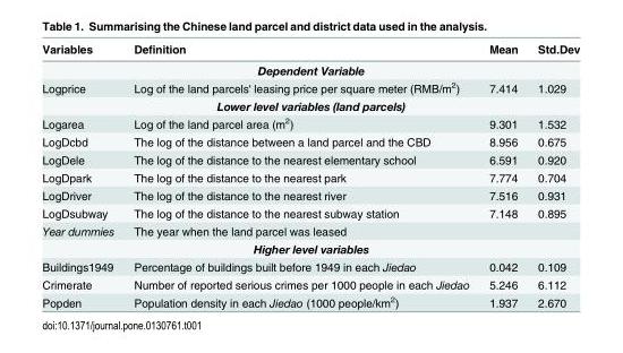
<table><thead><tr><td>Variables</td><td>Definition</td><td>Mean</td><td>Std.Dev</td></tr></thead><tbody><tr><td colspan="4">Dependent Variable</td></tr><tr><td>Logprice</td><td>Log of the land parcels&#x27; leasing price per square meter (RMB/m<sup>2</sup>)</td><td>7.414</td><td>1.029</td></tr><tr><td colspan="4">Lower level variables (land parcels)</td></tr><tr><td>Logarea</td><td>Log of the land parcel area (m<sup>2</sup>)</td><td>9.301</td><td>1.532</td></tr><tr><td>LogDcbd</td><td>The log of the distance between a land parcel and the CBD</td><td>8.956</td><td>0.675</td></tr><tr><td>LogDele</td><td>The log of the distance to the nearest elementary school</td><td>6.591</td><td>0.920</td></tr><tr><td>LogDpark</td><td>The log of the distance to the nearest park</td><td>7.774</td><td>0.704</td></tr><tr><td>LogDriver</td><td>The log of the distance to the nearest river</td><td>7.516</td><td>0.931</td></tr><tr><td>LogDsubway</td><td>The log of the distance to the nearest subway station</td><td>7.148</td><td>0.895</td></tr><tr><td>Year dummies</td><td>The year when the land parcel was leased</td><td></td><td></td></tr><tr><td colspan="4">Higher level variables</td></tr><tr><td>Buildings1949</td><td>Percentage of buildings built before 1949 in each Jiedao</td><td>0.042</td><td>0.109</td></tr><tr><td>Crimerate</td><td>Number of reported serious crimes per 1000 people in each Jiedao</td><td>5.246</td><td>6.112</td></tr><tr><td>Popden</td><td>Population density in each Jiedao (1000 people/km<sup>2</sup>)</td><td>1.937</td><td>2.670</td></tr></tbody></table>